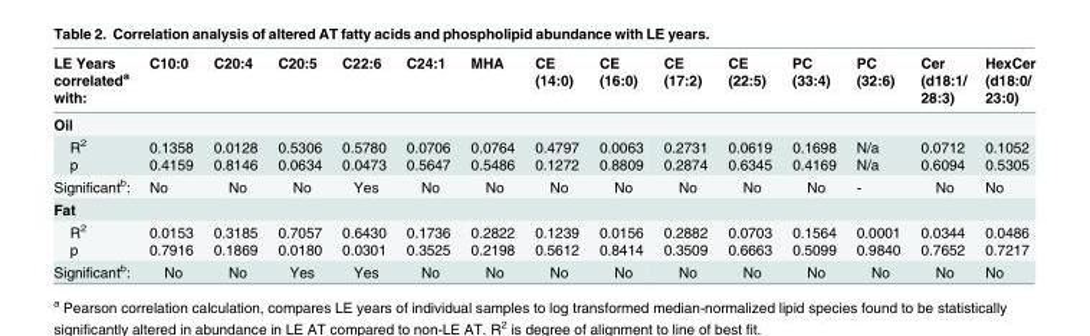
<table><thead><tr><td>LE Years correlated<sup>a</sup> with:</td><td>C10:0</td><td>C20:4</td><td>C20:5</td><td>C22:6</td><td>C24:1</td><td>MHA</td><td>CE (14:0)</td><td>CE (16:0)</td><td>CE (17:2)</td><td>CE (22:5)</td><td>PC (33:4)</td><td>PC (32:6)</td><td>Cer (d18:1/ 28:3)</td><td>HexCer (d18:0/ 23:0)</td></tr></thead><tbody><tr><td colspan="15">Oil</td></tr><tr><td>R<sup>2</sup> p</td><td>0.1358 0.4159</td><td>0.0128 0.8146</td><td>0.5306 0.0634</td><td>0.5780 0.0473</td><td>0.0706 0.5647</td><td>0.0764 0.5486</td><td>0.4797 0.1272</td><td>0.0063 0.8809</td><td>0.2731 0.2874</td><td>0.0619 0.6345</td><td>0.1698 0.4169</td><td>N/a N/a</td><td>0.0712 0.6094</td><td>0.1052 0.5305</td></tr><tr><td>Significant<sup>b</sup>:</td><td>No</td><td>No</td><td>No</td><td>Yes</td><td>No</td><td>No</td><td>No</td><td>No</td><td>No</td><td>No</td><td>No</td><td>-</td><td>No</td><td>No</td></tr><tr><td colspan="15">Fat</td></tr><tr><td>R<sup>2</sup> p</td><td>0.0153 0.7916</td><td>0.3185 0.1869</td><td>0.7057 0.0180</td><td>0.6430 0.0301</td><td>0.1736 0.3525</td><td>0.2822 0.2198</td><td>0.1239 0.5612</td><td>0.0156 0.8414</td><td>0.2882 0.3509</td><td>0.0703 0.6663</td><td>0.1564 0.5099</td><td>0.0001 0.9840</td><td>0.0344 0.7652</td><td>0.0486 0.7217</td></tr><tr><td>Significant<sup>b</sup>:</td><td>No</td><td>No</td><td>Yes</td><td>Yes</td><td>No</td><td>No</td><td>No</td><td>No</td><td>No</td><td>No</td><td>No</td><td>No</td><td>No</td><td>No</td></tr></tbody></table>